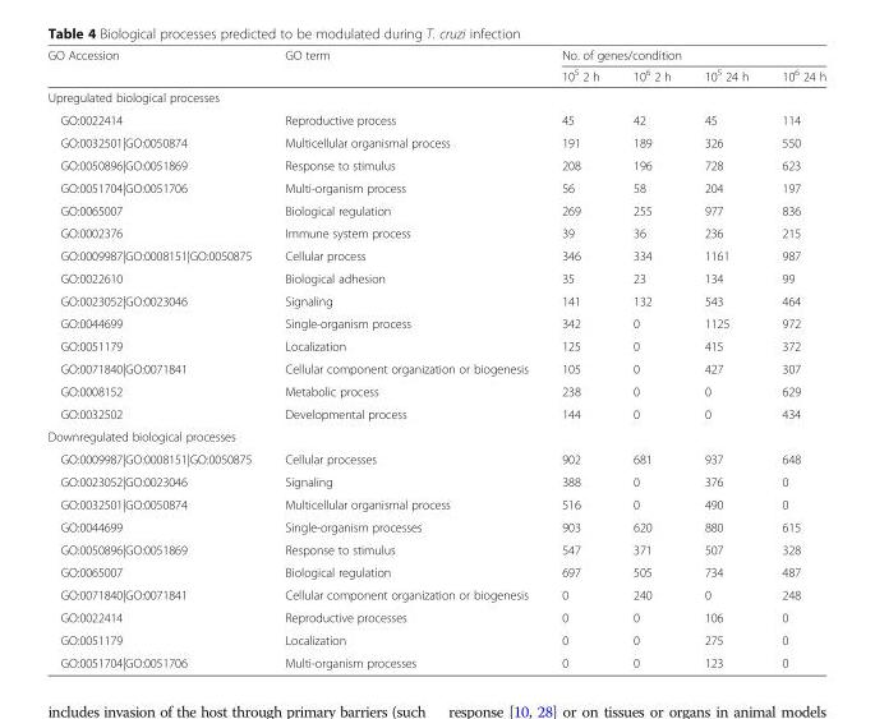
<table><thead><tr><td rowspan="2">GO Accession</td><td rowspan="2">GO term</td><td colspan="4">No. of genes/condition</td></tr><tr><td>10<sup>5</sup> 2 h</td><td>10<sup>6</sup> 2 h</td><td>10<sup>5</sup> 24 h</td><td>10<sup>6</sup> 24 h</td></tr></thead><tbody><tr><td colspan="6">Upregulated biological processes</td></tr><tr><td>GO:0022414</td><td>Reproductive process</td><td>45</td><td>42</td><td>45</td><td>114</td></tr><tr><td>GO:0032501|GO:0050874</td><td>Multicellular organismal process</td><td>191</td><td>189</td><td>326</td><td>550</td></tr><tr><td>GO:0050896|GO:0051869</td><td>Response to stimulus</td><td>208</td><td>196</td><td>728</td><td>623</td></tr><tr><td>GO:0051704|GO:0051706</td><td>Multi-organism process</td><td>56</td><td>58</td><td>204</td><td>197</td></tr><tr><td>GO:0065007</td><td>Biological regulation</td><td>269</td><td>255</td><td>977</td><td>836</td></tr><tr><td>GO:0002376</td><td>Immune system process</td><td>39</td><td>36</td><td>236</td><td>215</td></tr><tr><td>GO:0009987|GO:0008151|GO:0050875</td><td>Cellular process</td><td>346</td><td>334</td><td>1161</td><td>987</td></tr><tr><td>GO:0022610</td><td>Biological adhesion</td><td>35</td><td>23</td><td>134</td><td>99</td></tr><tr><td>GO:0023052|GO:0023046</td><td>Signaling</td><td>141</td><td>132</td><td>543</td><td>464</td></tr><tr><td>GO:0044699</td><td>Single-organism process</td><td>342</td><td>0</td><td>1125</td><td>972</td></tr><tr><td>GO:0051179</td><td>Localization</td><td>125</td><td>0</td><td>415</td><td>372</td></tr><tr><td>GO:0071840|GO:0071841</td><td>Cellular component organization or biogenesis</td><td>105</td><td>0</td><td>427</td><td>307</td></tr><tr><td>GO:0008152</td><td>Metabolic process</td><td>238</td><td>0</td><td>0</td><td>629</td></tr><tr><td>GO:0032502</td><td>Developmental process</td><td>144</td><td>0</td><td>0</td><td>434</td></tr><tr><td colspan="6">Downregulated biological processes</td></tr><tr><td>GO:0009987|GO:0008151|GO:0050875</td><td>Cellular processes</td><td>902</td><td>681</td><td>937</td><td>648</td></tr><tr><td>GO:0023052|GO:0023046</td><td>Signaling</td><td>388</td><td>0</td><td>376</td><td>0</td></tr><tr><td>GO:0032501|GO:0050874</td><td>Multicellular organismal process</td><td>516</td><td>0</td><td>490</td><td>0</td></tr><tr><td>GO:0044699</td><td>Single-organism processes</td><td>903</td><td>620</td><td>880</td><td>615</td></tr><tr><td>GO:0050896|GO:0051869</td><td>Response to stimulus</td><td>547</td><td>371</td><td>507</td><td>328</td></tr><tr><td>GO:0065007</td><td>Biological regulation</td><td>697</td><td>505</td><td>734</td><td>487</td></tr><tr><td>GO:0071840|GO:0071841</td><td>Cellular component organization or biogenesis</td><td>0</td><td>240</td><td>0</td><td>248</td></tr><tr><td>GO:0022414</td><td>Reproductive processes</td><td>0</td><td>0</td><td>106</td><td>0</td></tr><tr><td>GO:0051179</td><td>Localization</td><td>0</td><td>0</td><td>275</td><td>0</td></tr><tr><td>GO:0051704|GO:0051706</td><td>Multi-organism processes</td><td>0</td><td>0</td><td>123</td><td>0</td></tr></tbody></table>